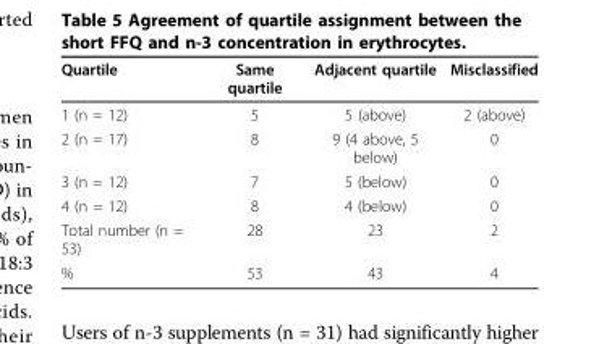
<table><thead><tr><td>Quartile</td><td>Same quartile</td><td>Adjacent quartile</td><td>Misclassified</td></tr></thead><tbody><tr><td>1 (n = 12)</td><td>5</td><td>5 (above)</td><td>2 (above)</td></tr><tr><td>2 (n = 17)</td><td>8</td><td>9 (4 above, 5 below)</td><td>0</td></tr><tr><td>3 (n = 12)</td><td>7</td><td>5 (below)</td><td>0</td></tr><tr><td>4 (n = 12)</td><td>8</td><td>4 (below)</td><td>0</td></tr><tr><td>Total number (n = 53)</td><td>28</td><td>23</td><td>2</td></tr><tr><td>%</td><td>53</td><td>43</td><td>4</td></tr></tbody></table>